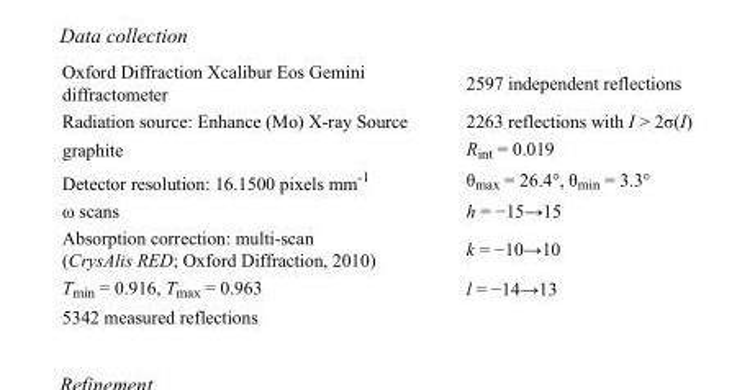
<table><tbody><tr><td>Oxford Diffraction Xcalibur Eos Gemini diffractometer</td><td>2597 independent reflections</td></tr><tr><td>Radiation source: Enhance (Mo) X-ray Source</td><td>2263 reflections with I &gt; 2σ(I)</td></tr><tr><td>graphite</td><td>R<sub>int</sub> = 0.019</td></tr><tr><td>Detector resolution: 16.1500 pixels mm<sup>-1</sup></td><td>θ<sub>max</sub> = 26.4°, θ<sub>min</sub> = 3.3°</td></tr><tr><td>ω scans</td><td>h = −15→15</td></tr><tr><td>Absorption correction: multi-scan (CrysAlis RED; Oxford Diffraction, 2010)</td><td>k = −10→10</td></tr><tr><td>T<sub>min</sub> = 0.916, T<sub>max</sub> = 0.963</td><td>l = −14→13</td></tr><tr><td>5342 measured reflections</td><td></td></tr></tbody></table>